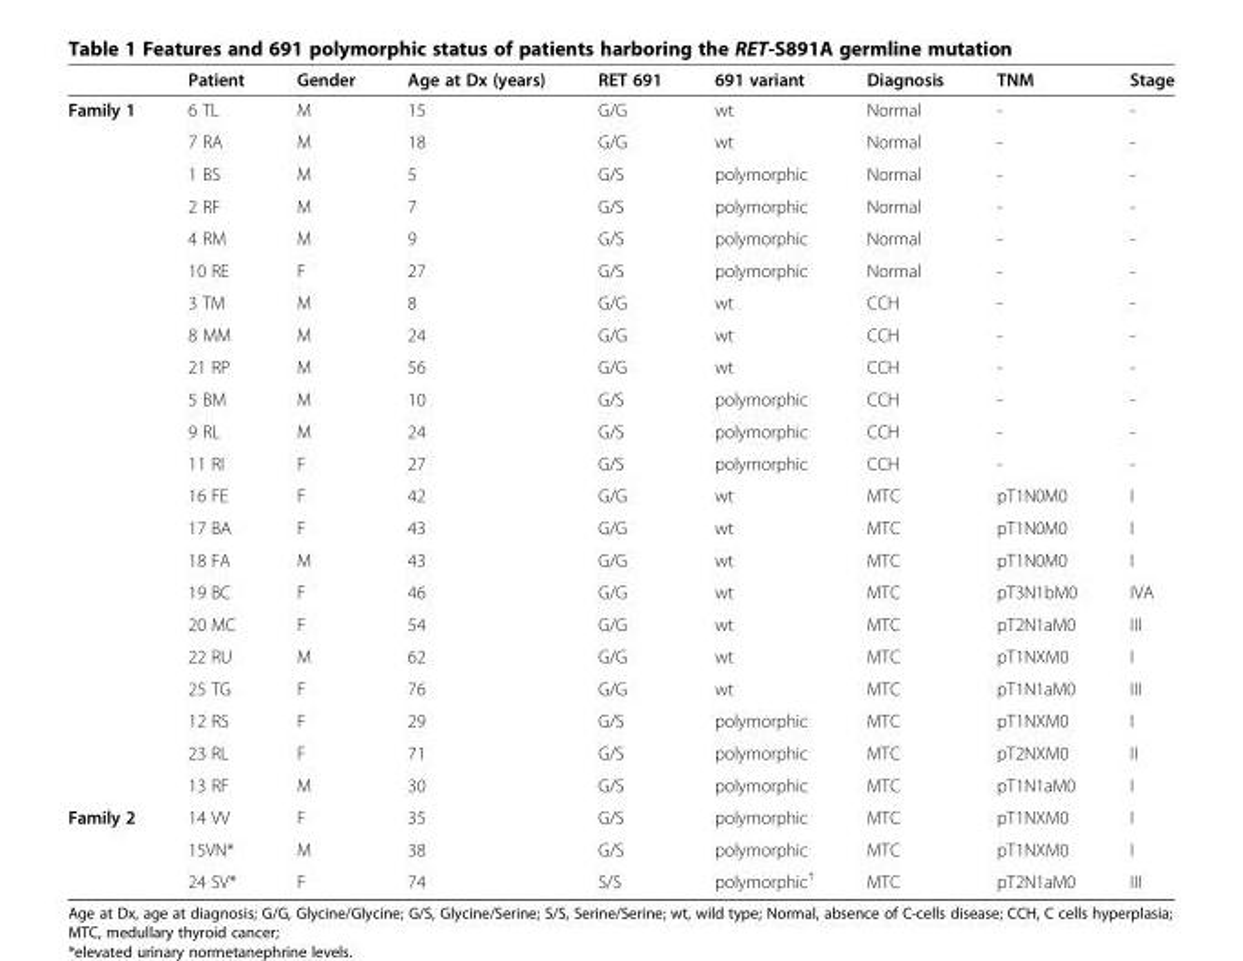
<table><thead><tr><td></td><td>Patient</td><td>Gender</td><td>Age at Dx (years)</td><td>RET 691</td><td>691 variant</td><td>Diagnosis</td><td>TNM</td><td>Stage</td></tr></thead><tbody><tr><td rowspan="22">Family 1</td><td>6 TL</td><td>M</td><td>15</td><td>G/G</td><td>wt</td><td>Normal</td><td>-</td><td>-</td></tr><tr><td>7 RA</td><td>M</td><td>18</td><td>G/G</td><td>wt</td><td>Normal</td><td>-</td><td>-</td></tr><tr><td>1 BS</td><td>M</td><td>5</td><td>G/S</td><td>polymorphic</td><td>Normal</td><td>-</td><td>-</td></tr><tr><td>2 RF</td><td>M</td><td>7</td><td>G/S</td><td>polymorphic</td><td>Normal</td><td>-</td><td>-</td></tr><tr><td>4 RM</td><td>M</td><td>9</td><td>G/S</td><td>polymorphic</td><td>Normal</td><td>-</td><td>-</td></tr><tr><td>10 RE</td><td>F</td><td>27</td><td>G/S</td><td>polymorphic</td><td>Normal</td><td>-</td><td>-</td></tr><tr><td>3 TM</td><td>M</td><td>8</td><td>G/G</td><td>wt</td><td>CCH</td><td>-</td><td>-</td></tr><tr><td>8 MM</td><td>M</td><td>24</td><td>G/G</td><td>wt</td><td>CCH</td><td>-</td><td>-</td></tr><tr><td>21 RP</td><td>M</td><td>56</td><td>G/G</td><td>wt</td><td>CCH</td><td>-</td><td>-</td></tr><tr><td>5 BM</td><td>M</td><td>10</td><td>G/S</td><td>polymorphic</td><td>CCH</td><td>-</td><td>-</td></tr><tr><td>9 RL</td><td>M</td><td>24</td><td>G/S</td><td>polymorphic</td><td>CCH</td><td>-</td><td>-</td></tr><tr><td>11 RI</td><td>F</td><td>27</td><td>G/S</td><td>polymorphic</td><td>CCH</td><td>-</td><td>-</td></tr><tr><td>16 FE</td><td>F</td><td>42</td><td>G/G</td><td>wt</td><td>MTC</td><td>pT1N0M0</td><td>I</td></tr><tr><td>17 BA</td><td>F</td><td>43</td><td>G/G</td><td>wt</td><td>MTC</td><td>pT1N0M0</td><td>I</td></tr><tr><td>18 FA</td><td>M</td><td>43</td><td>G/G</td><td>wt</td><td>MTC</td><td>pT1N0M0</td><td>I</td></tr><tr><td>19 BC</td><td>F</td><td>46</td><td>G/G</td><td>wt</td><td>MTC</td><td>pT3N1bM0</td><td>IVA</td></tr><tr><td>20 MC</td><td>F</td><td>54</td><td>G/G</td><td>wt</td><td>MTC</td><td>pT2N1aM0</td><td>III</td></tr><tr><td>22 RU</td><td>M</td><td>62</td><td>G/G</td><td>wt</td><td>MTC</td><td>pT1NXM0</td><td>I</td></tr><tr><td>25 TG</td><td>F</td><td>76</td><td>G/G</td><td>wt</td><td>MTC</td><td>pT1N1aM0</td><td>III</td></tr><tr><td>12 RS</td><td>F</td><td>29</td><td>G/S</td><td>polymorphic</td><td>MTC</td><td>pT1NXM0</td><td>I</td></tr><tr><td>23 RL</td><td>F</td><td>71</td><td>G/S</td><td>polymorphic</td><td>MTC</td><td>pT2NXM0</td><td>II</td></tr><tr><td>13 RF</td><td>M</td><td>30</td><td>G/S</td><td>polymorphic</td><td>MTC</td><td>pT1N1aM0</td><td>I</td></tr><tr><td rowspan="3">Family 2</td><td>14 VV</td><td>F</td><td>35</td><td>G/S</td><td>polymorphic</td><td>MTC</td><td>pT1NXM0</td><td>I</td></tr><tr><td>15VN*</td><td>M</td><td>38</td><td>G/S</td><td>polymorphic</td><td>MTC</td><td>pT1NXM0</td><td>I</td></tr><tr><td>24 SV*</td><td>F</td><td>74</td><td>S/S</td><td>polymorphic<sup>†</sup></td><td>MTC</td><td>pT2N1aM0</td><td>III</td></tr></tbody></table>